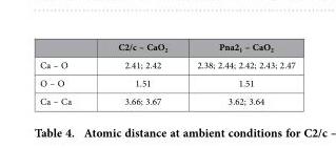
<table><thead><tr><td></td><td>C2/c – CaO<sub>2</sub></td><td>Pna2<sub>1</sub> – CaO<sub>2</sub></td></tr></thead><tbody><tr><td>Ca – O</td><td>2.41; 2.42</td><td>2.38; 2.44; 2.42; 2.43; 2.47</td></tr><tr><td>O – O</td><td>1.51</td><td>1.51</td></tr><tr><td>Ca – Ca</td><td>3.66; 3.67</td><td>3.62; 3.64</td></tr></tbody></table>